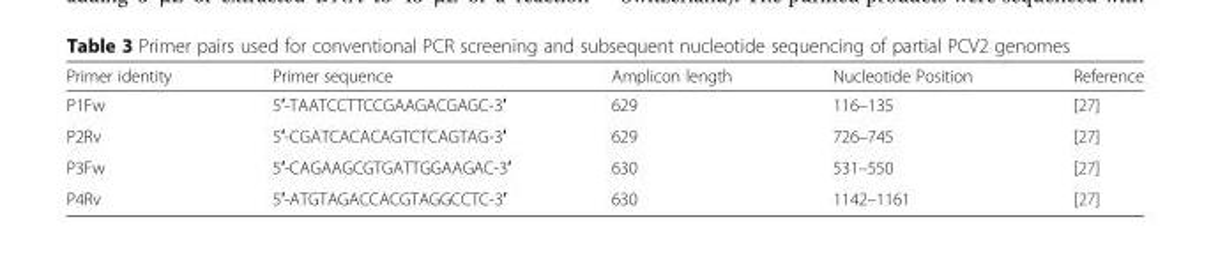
<table><thead><tr><td>Primer identity</td><td>Primer sequence</td><td>Amplicon length</td><td>Nucleotide Position</td><td>Reference</td></tr></thead><tbody><tr><td>P1Fw</td><td>5′-TAATCCTTCCGAAGACGAGC-3′</td><td>629</td><td>116–135</td><td>[27]</td></tr><tr><td>P2Rv</td><td>5′-CGATCACACAGTCTCAGTAG-3′</td><td>629</td><td>726–745</td><td>[27]</td></tr><tr><td>P3Fw</td><td>5′-CAGAAGCGTGATTGGAAGAC-3′</td><td>630</td><td>531–550</td><td>[27]</td></tr><tr><td>P4Rv</td><td>5′-ATGTAGACCACGTAGGCCTC-3′</td><td>630</td><td>1142–1161</td><td>[27]</td></tr></tbody></table>